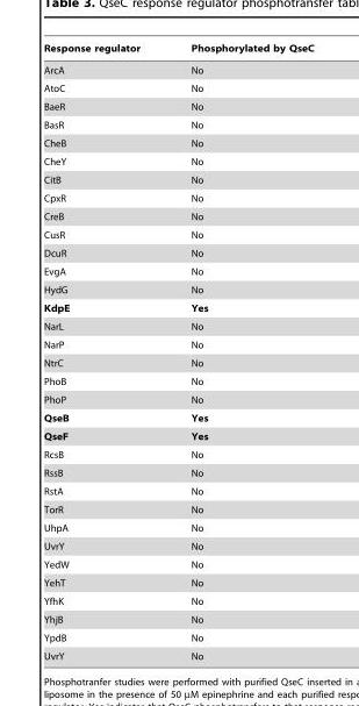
<table><thead><tr><td>Response regulator</td><td>Phosphorylated by QseC</td></tr></thead><tbody><tr><td>ArcA</td><td>No</td></tr><tr><td>AtoC</td><td>No</td></tr><tr><td>BaeR</td><td>No</td></tr><tr><td>BasR</td><td>No</td></tr><tr><td>CheB</td><td>No</td></tr><tr><td>CheY</td><td>No</td></tr><tr><td>CitB</td><td>No</td></tr><tr><td>CpxR</td><td>No</td></tr><tr><td>CreB</td><td>No</td></tr><tr><td>CusR</td><td>No</td></tr><tr><td>DcuR</td><td>No</td></tr><tr><td>EvgA</td><td>No</td></tr><tr><td>HydG</td><td>No</td></tr><tr><td>KdpE</td><td>Yes</td></tr><tr><td>NarL</td><td>No</td></tr><tr><td>NarP</td><td>No</td></tr><tr><td>NtrC</td><td>No</td></tr><tr><td>PhoB</td><td>No</td></tr><tr><td>PhoP</td><td>No</td></tr><tr><td>QseB</td><td>Yes</td></tr><tr><td>QseF</td><td>Yes</td></tr><tr><td>RcsB</td><td>No</td></tr><tr><td>RssB</td><td>No</td></tr><tr><td>RstA</td><td>No</td></tr><tr><td>TorR</td><td>No</td></tr><tr><td>UhpA</td><td>No</td></tr><tr><td>UvrY</td><td>No</td></tr><tr><td>YedW</td><td>No</td></tr><tr><td>YehT</td><td>No</td></tr><tr><td>YfhK</td><td>No</td></tr><tr><td>YhjB</td><td>No</td></tr><tr><td>YpdB</td><td>No</td></tr><tr><td>UvrY</td><td>No</td></tr></tbody></table>